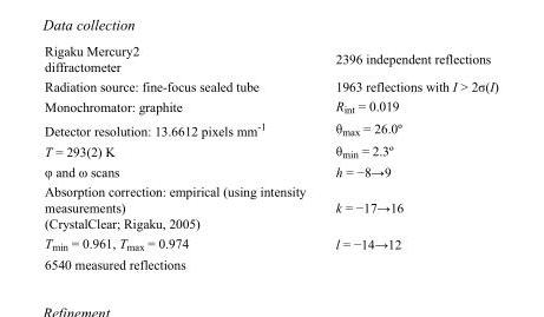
<table><tbody><tr><td>Rigaku Mercury2 diffractometer</td><td>2396 independent reflections</td></tr><tr><td>Radiation source: fine-focus sealed tube</td><td>1963 reflections with I &gt; 2σ(I)</td></tr><tr><td>Monochromator: graphite</td><td>R<sub>int</sub> = 0.019</td></tr><tr><td>Detector resolution: 13.6612 pixels mm<sup>-1</sup></td><td>θ<sub>max</sub> = 26.0º</td></tr><tr><td>T = 293(2) K</td><td>θ<sub>min</sub> = 2.3º</td></tr><tr><td>φ and ω scans</td><td>h = −8→9</td></tr><tr><td>Absorption correction: empirical (using intensity measurements) (CrystalClear; Rigaku, 2005)</td><td>k = −17→16</td></tr><tr><td>T<sub>min</sub> = 0.961, T<sub>max</sub> = 0.974</td><td>l = −14→12</td></tr><tr><td>6540 measured reflections</td><td></td></tr></tbody></table>